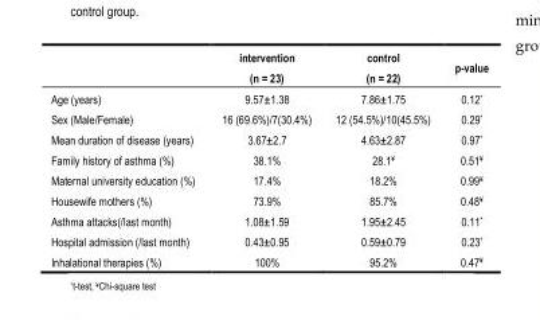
<table><thead><tr><td></td><td>intervention (n = 23)</td><td>control (n = 22)</td><td>p-value</td></tr></thead><tbody><tr><td>Age (years)</td><td>9.57±1.38</td><td>7.86±1.75</td><td>0.12*</td></tr><tr><td>Sex (Male/Female)</td><td>16 (69.6%)/7(30.4%)</td><td>12 (54.5%)/10(45.5%)</td><td>0.29*</td></tr><tr><td>Mean duration of disease (years)</td><td>3.67±2.7</td><td>4.63±2.87</td><td>0.97*</td></tr><tr><td>Family history of asthma (%)</td><td>38.1%</td><td>28.1<sup>¥</sup></td><td>0.51<sup>¥</sup></td></tr><tr><td>Maternal university education (%)</td><td>17.4%</td><td>18.2%</td><td>0.99<sup>¥</sup></td></tr><tr><td>Housewife mothers (%)</td><td>73.9%</td><td>85.7%</td><td>0.48<sup>¥</sup></td></tr><tr><td>Asthma attacks(/last month)</td><td>1.08±1.59</td><td>1.95±2.45</td><td>0.11*</td></tr><tr><td>Hospital admission (/last month)</td><td>0.43±0.95</td><td>0.59±0.79</td><td>0.23*</td></tr><tr><td>Inhalational therapies (%)</td><td>100%</td><td>95.2%</td><td>0.47<sup>¥</sup></td></tr></tbody></table>